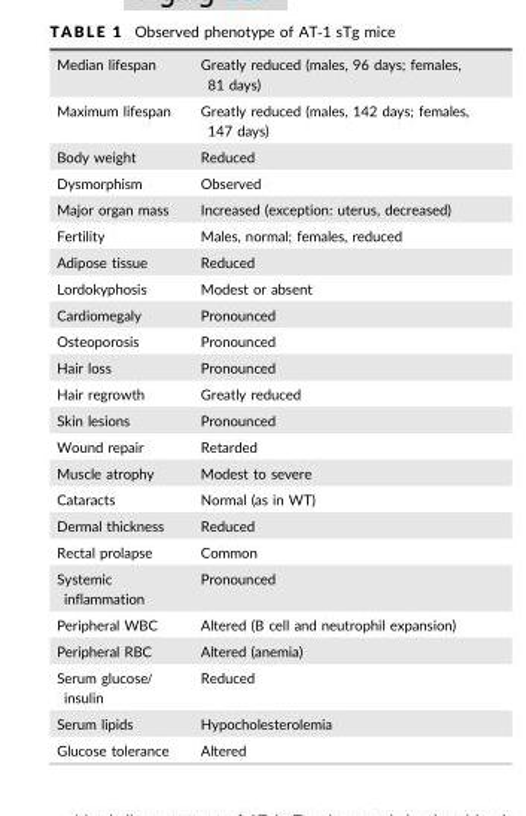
<table><tbody><tr><td>Median lifespan</td><td>Greatly reduced (males, 96 days; females, 81 days)</td></tr><tr><td>Maximum lifespan</td><td>Greatly reduced (males, 142 days; females, 147 days)</td></tr><tr><td>Body weight</td><td>Reduced</td></tr><tr><td>Dysmorphism</td><td>Observed</td></tr><tr><td>Major organ mass</td><td>Increased (exception: uterus, decreased)</td></tr><tr><td>Fertility</td><td>Males, normal; females, reduced</td></tr><tr><td>Adipose tissue</td><td>Reduced</td></tr><tr><td>Lordokyphosis</td><td>Modest or absent</td></tr><tr><td>Cardiomegaly</td><td>Pronounced</td></tr><tr><td>Osteoporosis</td><td>Pronounced</td></tr><tr><td>Hair loss</td><td>Pronounced</td></tr><tr><td>Hair regrowth</td><td>Greatly reduced</td></tr><tr><td>Skin lesions</td><td>Pronounced</td></tr><tr><td>Wound repair</td><td>Retarded</td></tr><tr><td>Muscle atrophy</td><td>Modest to severe</td></tr><tr><td>Cataracts</td><td>Normal (as in WT)</td></tr><tr><td>Dermal thickness</td><td>Reduced</td></tr><tr><td>Rectal prolapse</td><td>Common</td></tr><tr><td>Systemic inflammation</td><td>Pronounced</td></tr><tr><td>Peripheral WBC</td><td>Altered (B cell and neutrophil expansion)</td></tr><tr><td>Peripheral RBC</td><td>Altered (anemia)</td></tr><tr><td>Serum glucose/ insulin</td><td>Reduced</td></tr><tr><td>Serum lipids</td><td>Hypocholesterolemia</td></tr><tr><td>Glucose tolerance</td><td>Altered</td></tr></tbody></table>